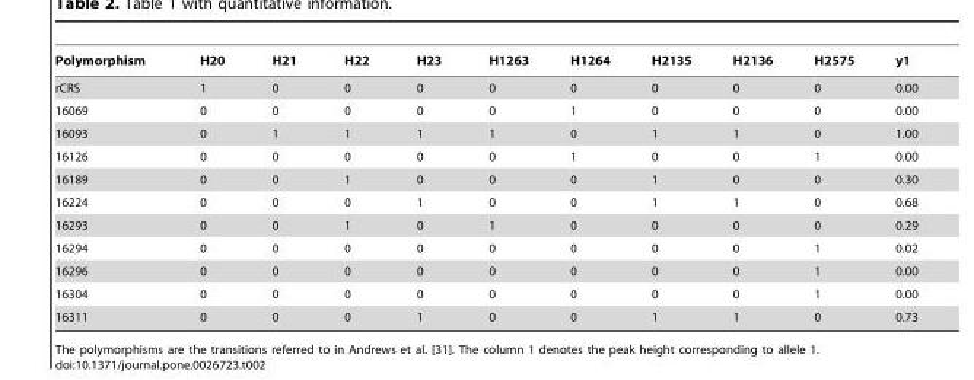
<table><thead><tr><td>Polymorphism</td><td>H20</td><td>H21</td><td>H22</td><td>H23</td><td>H1263</td><td>H1264</td><td>H2135</td><td>H2136</td><td>H2575</td><td>y1</td></tr></thead><tbody><tr><td>rCRS</td><td>1</td><td>0</td><td>0</td><td>0</td><td>0</td><td>0</td><td>0</td><td>0</td><td>0</td><td>0.00</td></tr><tr><td>16069</td><td>0</td><td>0</td><td>0</td><td>0</td><td>0</td><td>1</td><td>0</td><td>0</td><td>0</td><td>0.00</td></tr><tr><td>16093</td><td>0</td><td>1</td><td>1</td><td>1</td><td>1</td><td>0</td><td>1</td><td>1</td><td>0</td><td>1.00</td></tr><tr><td>16126</td><td>0</td><td>0</td><td>0</td><td>0</td><td>0</td><td>1</td><td>0</td><td>0</td><td>1</td><td>0.00</td></tr><tr><td>16189</td><td>0</td><td>0</td><td>1</td><td>0</td><td>0</td><td>0</td><td>1</td><td>0</td><td>0</td><td>0.30</td></tr><tr><td>16224</td><td>0</td><td>0</td><td>0</td><td>1</td><td>0</td><td>0</td><td>1</td><td>1</td><td>0</td><td>0.68</td></tr><tr><td>16293</td><td>0</td><td>0</td><td>1</td><td>0</td><td>1</td><td>0</td><td>0</td><td>0</td><td>0</td><td>0.29</td></tr><tr><td>16294</td><td>0</td><td>0</td><td>0</td><td>0</td><td>0</td><td>0</td><td>0</td><td>0</td><td>1</td><td>0.02</td></tr><tr><td>16296</td><td>0</td><td>0</td><td>0</td><td>0</td><td>0</td><td>0</td><td>0</td><td>0</td><td>1</td><td>0.00</td></tr><tr><td>16304</td><td>0</td><td>0</td><td>0</td><td>0</td><td>0</td><td>0</td><td>0</td><td>0</td><td>1</td><td>0.00</td></tr><tr><td>16311</td><td>0</td><td>0</td><td>0</td><td>1</td><td>0</td><td>0</td><td>1</td><td>1</td><td>0</td><td>0.73</td></tr></tbody></table>